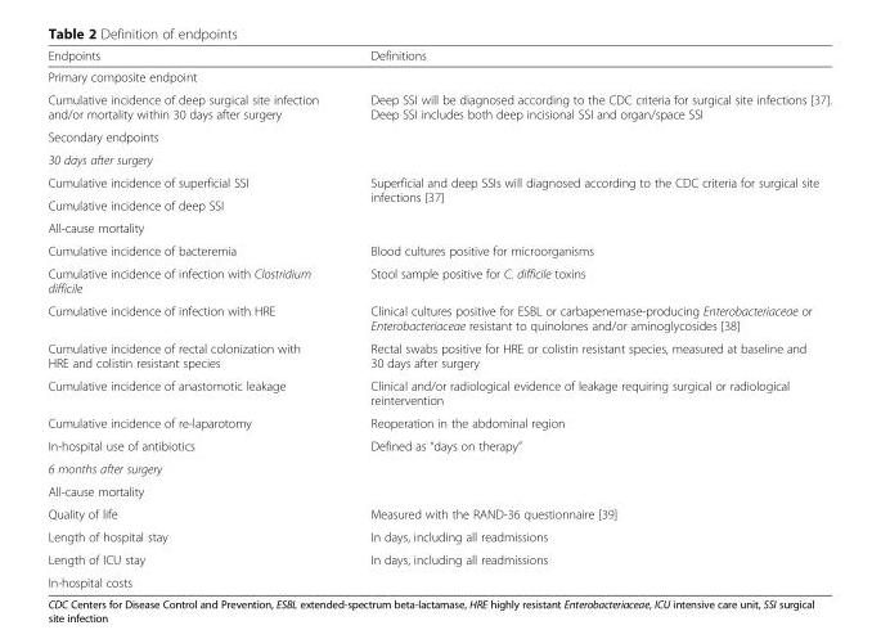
<table><thead><tr><td>Endpoints</td><td>Definitions</td></tr></thead><tbody><tr><td colspan="2">Primary composite endpoint</td></tr><tr><td>Cumulative incidence of deep surgical site infection and/or mortality within 30 days after surgery</td><td>Deep SSI will be diagnosed according to the CDC criteria for surgical site infections [37]. Deep SSI includes both deep incisional SSI and organ/space SSI</td></tr><tr><td colspan="2">Secondary endpoints</td></tr><tr><td colspan="2">30 days after surgery</td></tr><tr><td>Cumulative incidence of superficial SSI</td><td rowspan="2">Superficial and deep SSIs will diagnosed according to the CDC criteria for surgical site infections [37]</td></tr><tr><td>Cumulative incidence of deep SSI</td></tr><tr><td colspan="2">All-cause mortality</td></tr><tr><td>Cumulative incidence of bacteremia</td><td>Blood cultures positive for microorganisms</td></tr><tr><td>Cumulative incidence of infection with Clostridium difficile</td><td>Stool sample positive for C. difficile toxins</td></tr><tr><td>Cumulative incidence of infection with HRE</td><td>Clinical cultures positive for ESBL or carbapenemase-producing Enterobacteriaceae or Enterobacteriaceae resistant to quinolones and/or aminoglycosides [38]</td></tr><tr><td>Cumulative incidence of rectal colonization with HRE and colistin resistant species</td><td>Rectal swabs positive for HRE or colistin resistant species, measured at baseline and 30 days after surgery</td></tr><tr><td>Cumulative incidence of anastomotic leakage</td><td>Clinical and/or radiological evidence of leakage requiring surgical or radiological reintervention</td></tr><tr><td>Cumulative incidence of re-laparotomy</td><td>Reoperation in the abdominal region</td></tr><tr><td>In-hospital use of antibiotics</td><td>Defined as “days on therapy”</td></tr><tr><td colspan="2">6 months after surgery</td></tr><tr><td colspan="2">All-cause mortality</td></tr><tr><td>Quality of life</td><td>Measured with the RAND-36 questionnaire [39]</td></tr><tr><td>Length of hospital stay</td><td>In days, including all readmissions</td></tr><tr><td>Length of ICU stay</td><td>In days, including all readmissions</td></tr><tr><td>In-hospital costs</td><td></td></tr></tbody></table>